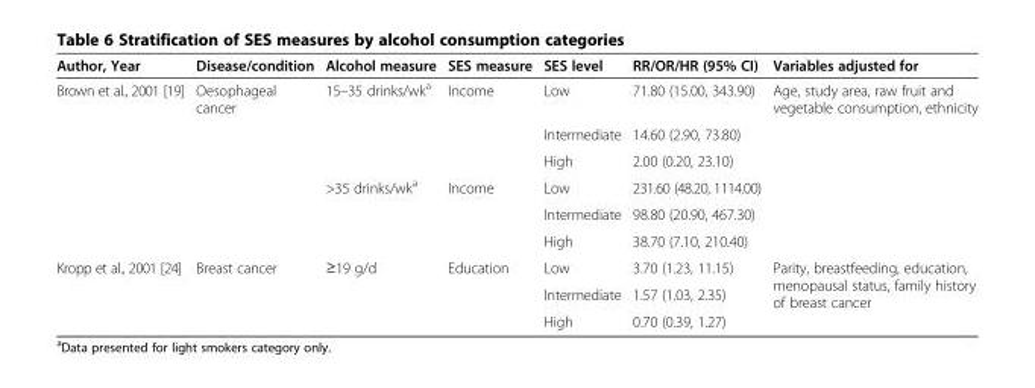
<table><thead><tr><td>Author, Year</td><td>Disease/condition</td><td>Alcohol measure</td><td>SES measure</td><td>SES level</td><td>RR/OR/HR (95% CI)</td><td>Variables adjusted for</td></tr></thead><tbody><tr><td rowspan="6">Brown et al., 2001 [19]</td><td>Oesophageal cancer</td><td>15–35 drinks/wk<sup>a</sup></td><td>Income</td><td>Low</td><td>71.80 (15.00, 343.90)</td><td rowspan="6">Age, study area, raw fruit and vegetable consumption, ethnicity</td></tr><tr><td></td><td></td><td></td><td>Intermediate</td><td>14.60 (2.90, 73.80)</td></tr><tr><td></td><td></td><td></td><td>High</td><td>2.00 (0.20, 23.10)</td></tr><tr><td></td><td>&gt;35 drinks/wk<sup>a</sup></td><td>Income</td><td>Low</td><td>231.60 (48.20, 1114.00)</td></tr><tr><td></td><td></td><td></td><td>Intermediate</td><td>98.80 (20.90, 467.30)</td></tr><tr><td></td><td></td><td></td><td>High</td><td>38.70 (7.10, 210.40)</td></tr><tr><td rowspan="3">Kropp et al., 2001 [24]</td><td>Breast cancer</td><td>≥19 g/d</td><td>Education</td><td>Low</td><td>3.70 (1.23, 11.15)</td><td rowspan="3">Parity, breastfeeding, education, menopausal status, family history of breast cancer</td></tr><tr><td></td><td></td><td></td><td>Intermediate</td><td>1.57 (1.03, 2.35)</td></tr><tr><td></td><td></td><td></td><td>High</td><td>0.70 (0.39, 1.27)</td></tr></tbody></table>